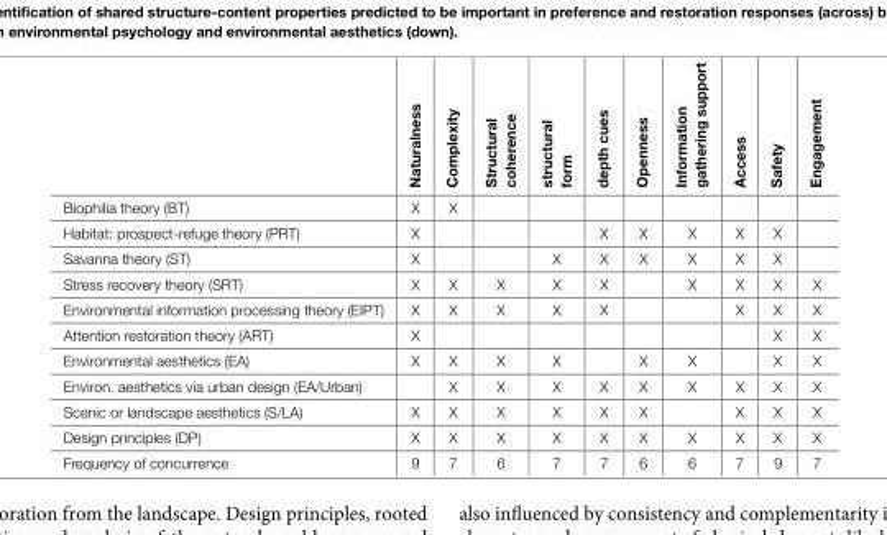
<table><thead><tr><td></td><td>Naturalness</td><td>Complexity</td><td>Structural coherence</td><td>structural form</td><td>depth cues</td><td>Openness</td><td>Information gathering support</td><td>Access</td><td>Safety</td><td>Engagement</td></tr></thead><tbody><tr><td>Biophilia theory (BT)</td><td>X</td><td>X</td><td></td><td></td><td></td><td></td><td></td><td></td><td></td><td></td></tr><tr><td>Habitat: prospect-refuge theory (PRT)</td><td>X</td><td></td><td></td><td></td><td>X</td><td>X</td><td>X</td><td>X</td><td>X</td><td></td></tr><tr><td>Savanna theory (ST)</td><td>X</td><td></td><td></td><td>X</td><td>X</td><td>X</td><td>X</td><td>X</td><td>X</td><td></td></tr><tr><td>Stress recovery theory (SRT)</td><td>X</td><td>X</td><td>X</td><td>X</td><td>X</td><td></td><td>X</td><td>X</td><td>X</td><td>X</td></tr><tr><td>Environmental information processing theory (EIPT)</td><td>X</td><td>X</td><td>X</td><td>X</td><td>X</td><td></td><td></td><td>X</td><td>X</td><td>X</td></tr><tr><td>Attention restoration theory (ART)</td><td>X</td><td></td><td></td><td></td><td></td><td></td><td></td><td></td><td>X</td><td>X</td></tr><tr><td>Environmental aesthetics (EA)</td><td>X</td><td>X</td><td>X</td><td>X</td><td></td><td>X</td><td>X</td><td></td><td>X</td><td>X</td></tr><tr><td>Environ. aesthetics via urban design (EA/Urban)</td><td></td><td>X</td><td>X</td><td>X</td><td>X</td><td>X</td><td>X</td><td>X</td><td>X</td><td>X</td></tr><tr><td>Scenic or landscape aesthetics (S/LA)</td><td>X</td><td>X</td><td>X</td><td>X</td><td>X</td><td>X</td><td></td><td>X</td><td>X</td><td>X</td></tr><tr><td>Design principles (DP)</td><td>X</td><td>X</td><td>X</td><td>X</td><td>X</td><td>X</td><td>X</td><td>X</td><td>X</td><td>X</td></tr><tr><td>Frequency of concurrence</td><td>9</td><td>7</td><td>6</td><td>7</td><td>7</td><td>6</td><td>6</td><td>7</td><td>9</td><td>7</td></tr></tbody></table>